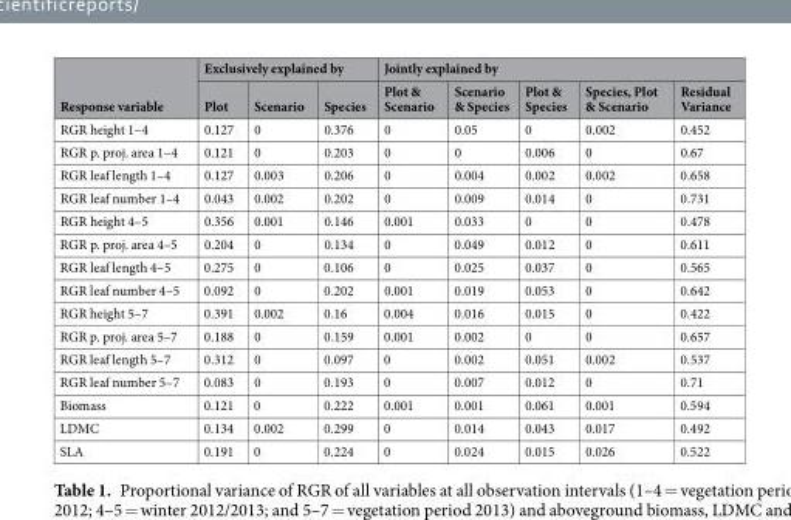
<table><thead><tr><td rowspan="2">Response variable</td><td colspan="3">Exclusively explained by</td><td colspan="5">Jointly explained by</td></tr><tr><td>Plot</td><td>Scenario</td><td>Species</td><td>Plot &amp; Scenario</td><td>Scenario &amp; Species</td><td>Plot &amp; Species</td><td>Species, Plot &amp; Scenario</td><td>Residual Variance</td></tr></thead><tbody><tr><td>RGR height 1–4</td><td>0.127</td><td>0</td><td>0.376</td><td>0</td><td>0.05</td><td>0</td><td>0.002</td><td>0.452</td></tr><tr><td>RGR p. proj. area 1–4</td><td>0.121</td><td>0</td><td>0.203</td><td>0</td><td>0</td><td>0.006</td><td>0</td><td>0.67</td></tr><tr><td>RGR leaf length 1–4</td><td>0.127</td><td>0.003</td><td>0.206</td><td>0</td><td>0.004</td><td>0.002</td><td>0.002</td><td>0.658</td></tr><tr><td>RGR leaf number 1–4</td><td>0.043</td><td>0.002</td><td>0.202</td><td>0</td><td>0.009</td><td>0.014</td><td>0</td><td>0.731</td></tr><tr><td>RGR height 4–5</td><td>0.356</td><td>0.001</td><td>0.146</td><td>0.001</td><td>0.033</td><td>0</td><td>0</td><td>0.478</td></tr><tr><td>RGR p. proj. area 4–5</td><td>0.204</td><td>0</td><td>0.134</td><td>0</td><td>0.049</td><td>0.012</td><td>0</td><td>0.611</td></tr><tr><td>RGR leaf length 4–5</td><td>0.275</td><td>0</td><td>0.106</td><td>0</td><td>0.025</td><td>0.037</td><td>0</td><td>0.565</td></tr><tr><td>RGR leaf number 4–5</td><td>0.092</td><td>0</td><td>0.202</td><td>0.001</td><td>0.019</td><td>0.053</td><td>0</td><td>0.642</td></tr><tr><td>RGR height 5–7</td><td>0.391</td><td>0.002</td><td>0.16</td><td>0.004</td><td>0.016</td><td>0.015</td><td>0</td><td>0.422</td></tr><tr><td>RGR p. proj. area 5–7</td><td>0.188</td><td>0</td><td>0.159</td><td>0.001</td><td>0.002</td><td>0</td><td>0</td><td>0.657</td></tr><tr><td>RGR leaf length 5–7</td><td>0.312</td><td>0</td><td>0.097</td><td>0</td><td>0.002</td><td>0.051</td><td>0.002</td><td>0.537</td></tr><tr><td>RGR leaf number 5–7</td><td>0.083</td><td>0</td><td>0.193</td><td>0</td><td>0.007</td><td>0.012</td><td>0</td><td>0.71</td></tr><tr><td>Biomass</td><td>0.121</td><td>0</td><td>0.222</td><td>0.001</td><td>0.001</td><td>0.061</td><td>0.001</td><td>0.594</td></tr><tr><td>LDMC</td><td>0.134</td><td>0.002</td><td>0.299</td><td>0</td><td>0.014</td><td>0.043</td><td>0.017</td><td>0.492</td></tr><tr><td>SLA</td><td>0.191</td><td>0</td><td>0.224</td><td>0</td><td>0.024</td><td>0.015</td><td>0.026</td><td>0.522</td></tr></tbody></table>